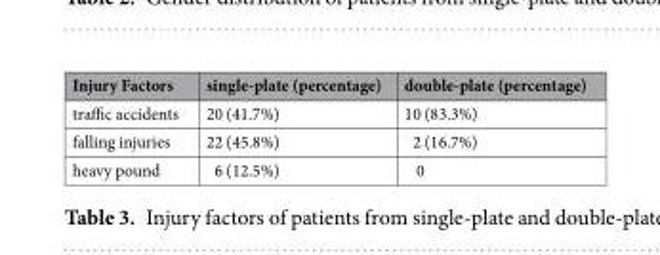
<table><thead><tr><td>Injury Factors</td><td>single-plate (percentage)</td><td>double-plate (percentage)</td></tr></thead><tbody><tr><td>traffic accidents</td><td>20 (41.7%)</td><td>10 (83.3%)</td></tr><tr><td>falling injuries</td><td>22 (45.8%)</td><td>2 (16.7%)</td></tr><tr><td>heavy pound</td><td>6 (12.5%)</td><td>0</td></tr></tbody></table>